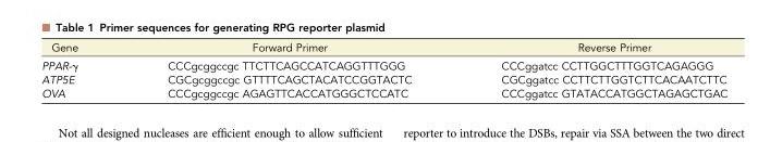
<table><thead><tr><td>Gene</td><td>Forward Primer</td><td>Reverse Primer</td></tr></thead><tbody><tr><td>PPAR-γ</td><td>CCCgcggccgc TTCTTCAGCCATCAGGTTTGGG</td><td>CCCggatcc CCTTGGCTTTGGTCAGAGGG</td></tr><tr><td>ATP5E</td><td>CGCgcggccgc GTTTTCAGCTACATCCGGTACTC</td><td>CGCggatcc CCTTCTTGGTCTTCACAATCTTC</td></tr><tr><td>OVA</td><td>CCCgcggccgc AGAGTTCACCATGGGCTCCATC</td><td>CCCggatcc GTATACCATGGCTAGAGCTGAC</td></tr></tbody></table>